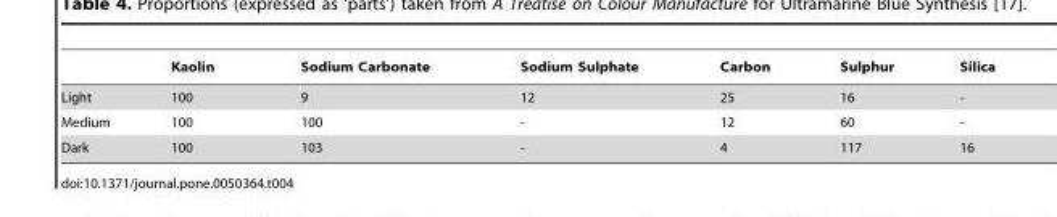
<table><thead><tr><td></td><td>Kaolin</td><td>Sodium Carbonate</td><td>Sodium Sulphate</td><td>Carbon</td><td>Sulphur</td><td>Silica</td></tr></thead><tbody><tr><td>Light</td><td>100</td><td>9</td><td>12</td><td>25</td><td>16</td><td>-</td></tr><tr><td>Medium</td><td>100</td><td>100</td><td>-</td><td>12</td><td>60</td><td>-</td></tr><tr><td>Dark</td><td>100</td><td>103</td><td>-</td><td>4</td><td>117</td><td>16</td></tr></tbody></table>